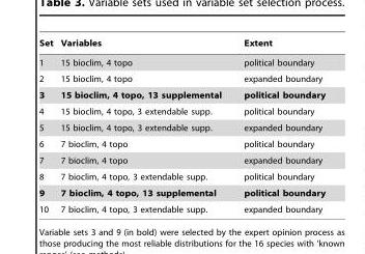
<table><thead><tr><td>Set</td><td>Variables</td><td>Extent</td></tr></thead><tbody><tr><td>1</td><td>15 bioclim, 4 topo</td><td>political boundary</td></tr><tr><td>2</td><td>15 bioclim, 4 topo</td><td>expanded boundary</td></tr><tr><td>3</td><td>15 bioclim, 4 topo, 13 supplemental</td><td>political boundary</td></tr><tr><td>4</td><td>15 bioclim, 4 topo, 3 extendable supp.</td><td>political boundary</td></tr><tr><td>5</td><td>15 bioclim, 4 topo, 3 extendable supp.</td><td>expanded boundary</td></tr><tr><td>6</td><td>7 bioclim, 4 topo</td><td>political boundary</td></tr><tr><td>7</td><td>7 bioclim, 4 topo</td><td>expanded boundary</td></tr><tr><td>8</td><td>7 bioclim, 4 topo, 3 extendable supp.</td><td>political boundary</td></tr><tr><td>9</td><td>7 bioclim, 4 topo, 13 supplemental</td><td>political boundary</td></tr><tr><td>10</td><td>7 bioclim, 4 topo, 3 extendable supp.</td><td>expanded boundary</td></tr></tbody></table>